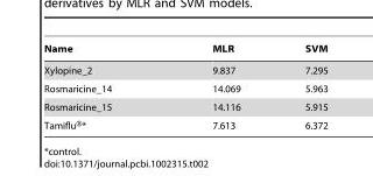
<table><thead><tr><td>Name</td><td>MLR</td><td>SVM</td></tr></thead><tbody><tr><td>Xylopine_2</td><td>9.837</td><td>7.295</td></tr><tr><td>Rosmaricine_14</td><td>14.069</td><td>5.963</td></tr><tr><td>Rosmaricine_15</td><td>14.116</td><td>5.915</td></tr><tr><td>Tamiflu®*</td><td>7.613</td><td>6.372</td></tr></tbody></table>